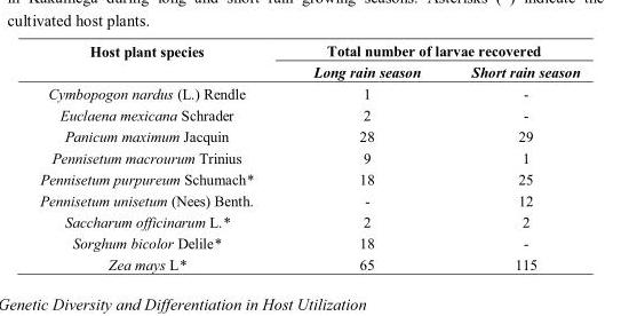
<table><thead><tr><td rowspan="2">Host plant species</td><td colspan="2">Total number of larvae recovered</td></tr><tr><td>Long rain season</td><td>Short rain season</td></tr></thead><tbody><tr><td>Cymbopogon nardus (L.) Rendle</td><td>1</td><td>-</td></tr><tr><td>Euclaena mexicana Schrader</td><td>2</td><td>-</td></tr><tr><td>Panicum maximum Jacquin</td><td>28</td><td>29</td></tr><tr><td>Pennisetum macrourum Trinius</td><td>9</td><td>1</td></tr><tr><td>Pennisetum purpureum Schumach*</td><td>18</td><td>25</td></tr><tr><td>Pennisetum unisetum (Nees) Benth.</td><td>-</td><td>12</td></tr><tr><td>Saccharum officinarum L.*</td><td>2</td><td>2</td></tr><tr><td>Sorghum bicolor Delile*</td><td>18</td><td>-</td></tr><tr><td>Zea mays L*</td><td>65</td><td>115</td></tr></tbody></table>